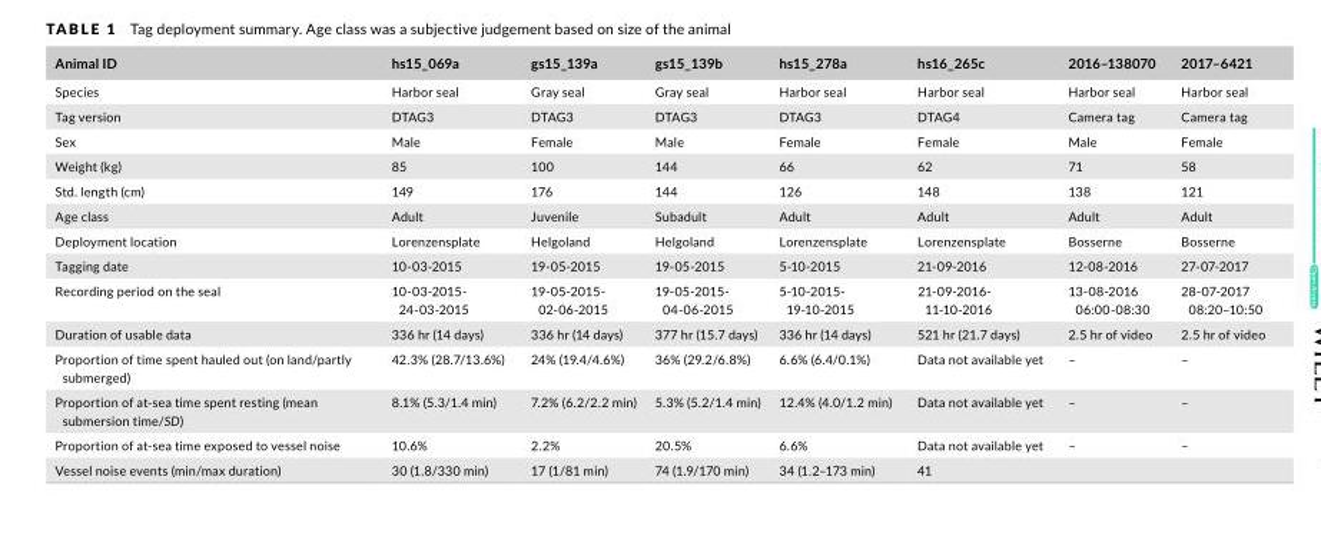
<table><thead><tr><td>Animal ID</td><td>hs15_069a</td><td>gs15_139a</td><td>gs15_139b</td><td>hs15_278a</td><td>hs16_265c</td><td>2016–138070</td><td>2017–6421</td></tr></thead><tbody><tr><td>Species</td><td>Harbor seal</td><td>Gray seal</td><td>Gray seal</td><td>Harbor seal</td><td>Harbor seal</td><td>Harbor seal</td><td>Harbor seal</td></tr><tr><td>Tag version</td><td>DTAG3</td><td>DTAG3</td><td>DTAG3</td><td>DTAG3</td><td>DTAG4</td><td>Camera tag</td><td>Camera tag</td></tr><tr><td>Sex</td><td>Male</td><td>Female</td><td>Male</td><td>Female</td><td>Female</td><td>Male</td><td>Female</td></tr><tr><td>Weight (kg)</td><td>85</td><td>100</td><td>144</td><td>66</td><td>62</td><td>71</td><td>58</td></tr><tr><td>Std. length (cm)</td><td>149</td><td>176</td><td>144</td><td>126</td><td>148</td><td>138</td><td>121</td></tr><tr><td>Age class</td><td>Adult</td><td>Juvenile</td><td>Subadult</td><td>Adult</td><td>Adult</td><td>Adult</td><td>Adult</td></tr><tr><td>Deployment location</td><td>Lorenzensplate</td><td>Helgoland</td><td>Helgoland</td><td>Lorenzensplate</td><td>Lorenzensplate</td><td>Bosserne</td><td>Bosserne</td></tr><tr><td>Tagging date</td><td>10‐03‐2015</td><td>19‐05‐2015</td><td>19‐05‐2015</td><td>5‐10‐2015</td><td>21‐09‐2016</td><td>12‐08‐2016</td><td>27‐07‐2017</td></tr><tr><td>Recording period on the seal</td><td>10‐03‐2015‐ 24‐03‐2015</td><td>19‐05‐2015‐ 02‐06‐2015</td><td>19‐05‐2015‐ 04‐06‐2015</td><td>5‐10‐2015‐ 19‐10‐2015</td><td>21‐09‐2016‐ 11‐10‐2016</td><td>13‐08‐2016 06:00‐08:30</td><td>28‐07‐2017 08:20–10:50</td></tr><tr><td>Duration of usable data</td><td>336 hr (14 days)</td><td>336 hr (14 days)</td><td>377 hr (15.7 days)</td><td>336 hr (14 days)</td><td>521 hr (21.7 days)</td><td>2.5 hr of video</td><td>2.5 hr of video</td></tr><tr><td>Proportion of time spent hauled out (on land/partly submerged)</td><td>42.3% (28.7/13.6%)</td><td>24% (19.4/4.6%)</td><td>36% (29.2/6.8%)</td><td>6.6% (6.4/0.1%)</td><td>Data not available yet</td><td>–</td><td>–</td></tr><tr><td>Proportion of at‐sea time spent resting (mean submersion time/SD)</td><td>8.1% (5.3/1.4 min)</td><td>7.2% (6.2/2.2 min)</td><td>5.3% (5.2/1.4 min)</td><td>12.4% (4.0/1.2 min)</td><td>Data not available yet</td><td>–</td><td>–</td></tr><tr><td>Proportion of at‐sea time exposed to vessel noise</td><td>10.6%</td><td>2.2%</td><td>20.5%</td><td>6.6%</td><td>Data not available yet</td><td>–</td><td>–</td></tr><tr><td>Vessel noise events (min/max duration)</td><td>30 (1.8/330 min)</td><td>17 (1/81 min)</td><td>74 (1.9/170 min)</td><td>34 (1.2–173 min)</td><td>41</td><td></td><td></td></tr></tbody></table>